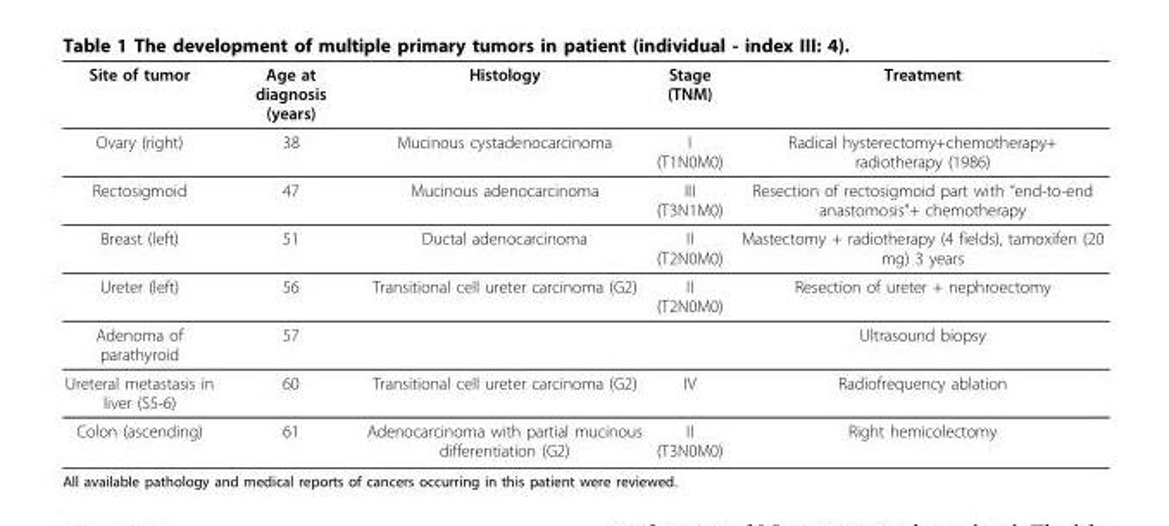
<table><thead><tr><td>Site of tumor</td><td>Age at diagnosis (years)</td><td>Histology</td><td>Stage (TNM)</td><td>Treatment</td></tr></thead><tbody><tr><td>Ovary (right)</td><td>38</td><td>Mucinous cystadenocarcinoma</td><td>I (T1N0M0)</td><td>Radical hysterectomy+chemotherapy+ radiotherapy (1986)</td></tr><tr><td>Rectosigmoid</td><td>47</td><td>Mucinous adenocarcinoma</td><td>III (T3N1M0)</td><td>Resection of rectosigmoid part with “end-to-end anastomosis&quot;+ chemotherapy</td></tr><tr><td>Breast (left)</td><td>51</td><td>Ductal adenocarcinoma</td><td>II (T2N0M0)</td><td>Mastectomy + radiotherapy (4 fields), tamoxifen (20 mg) 3 years</td></tr><tr><td>Ureter (left)</td><td>56</td><td>Transitional cell ureter carcinoma (G2)</td><td>II (T2N0M0)</td><td>Resection of ureter + nephroectomy</td></tr><tr><td>Adenoma of parathyroid</td><td>57</td><td></td><td></td><td>Ultrasound biopsy</td></tr><tr><td>Ureteral metastasis in liver (S5-6)</td><td>60</td><td>Transitional cell ureter carcinoma (G2)</td><td>IV</td><td>Radiofrequency ablation</td></tr><tr><td>Colon (ascending)</td><td>61</td><td>Adenocarcinoma with partial mucinous differentiation (G2)</td><td>II (T3N0M0)</td><td>Right hemicolectomy</td></tr></tbody></table>